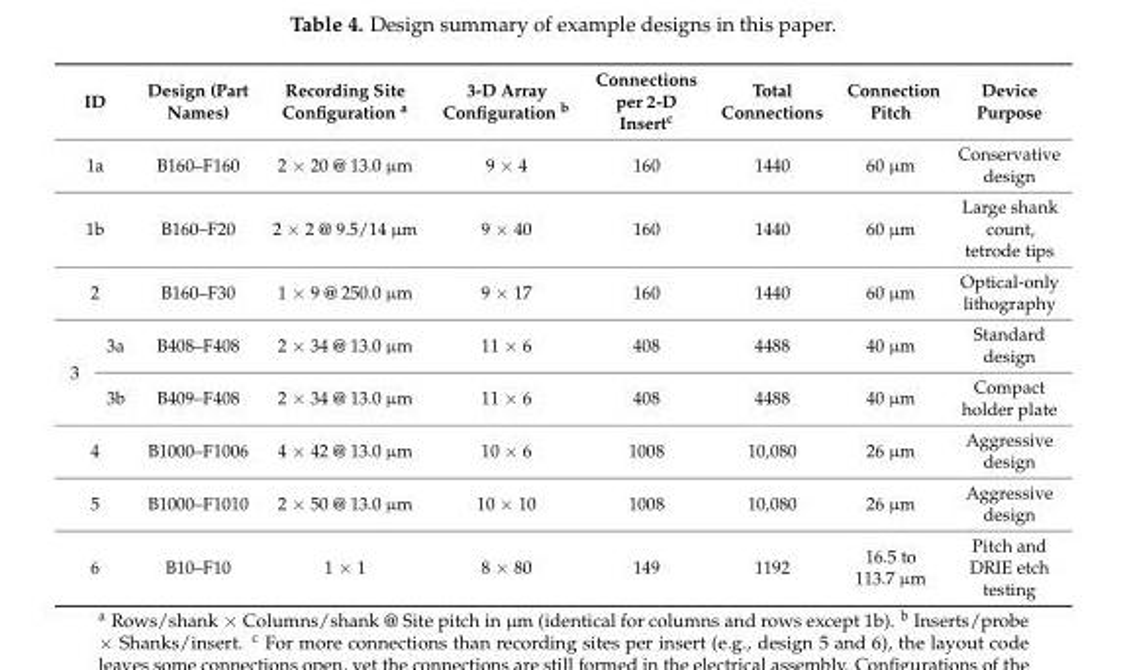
<table><thead><tr><td colspan="2">ID</td><td>Design (Part Names)</td><td>Recording Site Configuration <sup>a</sup></td><td>3-D Array Configuration <sup>b</sup></td><td>Connections per 2-D Insert<sup>c</sup></td><td>Total Connections</td><td>Connection Pitch</td><td>Device Purpose</td></tr></thead><tbody><tr><td colspan="2">1a</td><td>B160–F160</td><td>2 × 20 @ 13.0 µm</td><td>9 × 4</td><td>160</td><td>1440</td><td>60 µm</td><td>Conservative design</td></tr><tr><td colspan="2">1b</td><td>B160–F20</td><td>2 × 2 @ 9.5/14 µm</td><td>9 × 40</td><td>160</td><td>1440</td><td>60 µm</td><td>Large shank count, tetrode tips</td></tr><tr><td colspan="2">2</td><td>B160–F30</td><td>1 × 9 @ 250.0 µm</td><td>9 × 17</td><td>160</td><td>1440</td><td>60 µm</td><td>Optical-only lithography</td></tr><tr><td rowspan="2">3</td><td>3a</td><td>B408–F408</td><td>2 × 34 @ 13.0 µm</td><td>11 × 6</td><td>408</td><td>4488</td><td>40 µm</td><td>Standard design</td></tr><tr><td>3b</td><td>B409–F408</td><td>2 × 34 @ 13.0 µm</td><td>11 × 6</td><td>408</td><td>4488</td><td>40 µm</td><td>Compact holder plate</td></tr><tr><td colspan="2">4</td><td>B1000–F1006</td><td>4 × 42 @ 13.0 µm</td><td>10 × 6</td><td>1008</td><td>10,080</td><td>26 µm</td><td>Aggressive design</td></tr><tr><td colspan="2">5</td><td>B1000–F1010</td><td>2 × 50 @ 13.0 µm</td><td>10 × 10</td><td>1008</td><td>10,080</td><td>26 µm</td><td>Aggressive design</td></tr><tr><td colspan="2">6</td><td>B10–F10</td><td>1 × 1</td><td>8 × 80</td><td>149</td><td>1192</td><td>16.5 to 113.7 µm</td><td>Pitch and DRIE etch testing</td></tr></tbody></table>